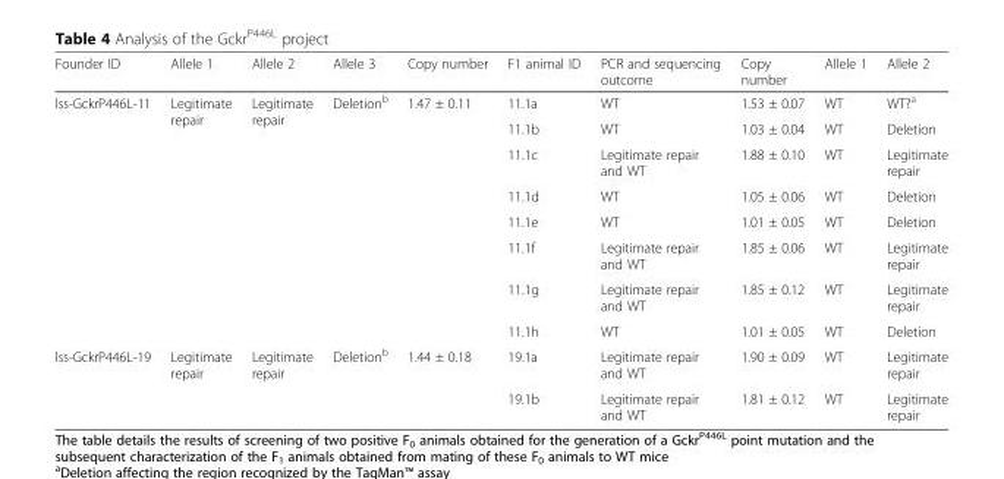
<table><thead><tr><td>Founder ID</td><td>Allele 1</td><td>Allele 2</td><td>Allele 3</td><td>Copy number</td><td>F1 animal ID</td><td>PCR and sequencing outcome</td><td>Copy number</td><td>Allele 1</td><td>Allele 2</td></tr></thead><tbody><tr><td rowspan="8">lss-GckrP446L-11</td><td rowspan="8">Legitimate repair</td><td rowspan="8">Legitimate repair</td><td rowspan="8">Deletion<sup>b</sup></td><td rowspan="8">1.47 ± 0.11</td><td>11.1a</td><td>WT</td><td>1.53 ± 0.07</td><td>WT</td><td>WT?<sup>a</sup></td></tr><tr><td>11.1b</td><td>WT</td><td>1.03 ± 0.04</td><td>WT</td><td>Deletion</td></tr><tr><td>11.1c</td><td>Legitimate repair and WT</td><td>1.88 ± 0.10</td><td>WT</td><td>Legitimate repair</td></tr><tr><td>11.1d</td><td>WT</td><td>1.05 ± 0.06</td><td>WT</td><td>Deletion</td></tr><tr><td>11.1e</td><td>WT</td><td>1.01 ± 0.05</td><td>WT</td><td>Deletion</td></tr><tr><td>11.1f</td><td>Legitimate repair and WT</td><td>1.85 ± 0.06</td><td>WT</td><td>Legitimate repair</td></tr><tr><td>11.1g</td><td>Legitimate repair and WT</td><td>1.85 ± 0.12</td><td>WT</td><td>Legitimate repair</td></tr><tr><td>11.1h</td><td>WT</td><td>1.01 ± 0.05</td><td>WT</td><td>Deletion</td></tr><tr><td rowspan="2">lss-GckrP446L-19</td><td rowspan="2">Legitimate repair</td><td rowspan="2">Legitimate repair</td><td rowspan="2">Deletion<sup>b</sup></td><td rowspan="2">1.44 ± 0.18</td><td>19.1a</td><td>Legitimate repair and WT</td><td>1.90 ± 0.09</td><td>WT</td><td>Legitimate repair</td></tr><tr><td>19.1b</td><td>Legitimate repair and WT</td><td>1.81 ± 0.12</td><td>WT</td><td>Legitimate repair</td></tr></tbody></table>